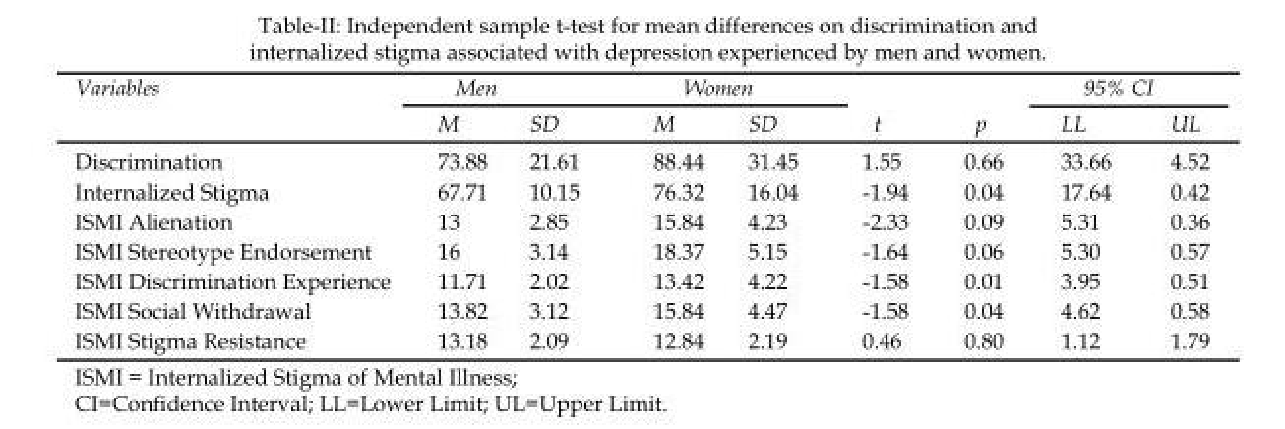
<table><thead><tr><td rowspan="2">Variables</td><td colspan="2">Men</td><td colspan="2">Women</td><td rowspan="2">t</td><td rowspan="2">p</td><td colspan="2">95% CI</td></tr><tr><td>M</td><td>SD</td><td>M</td><td>SD</td><td>LL</td><td>UL</td></tr></thead><tbody><tr><td>Discrimination</td><td>73.88</td><td>21.61</td><td>88.44</td><td>31.45</td><td>1.55</td><td>0.66</td><td>33.66</td><td>4.52</td></tr><tr><td>Internalized Stigma</td><td>67.71</td><td>10.15</td><td>76.32</td><td>16.04</td><td>-1.94</td><td>0.04</td><td>17.64</td><td>0.42</td></tr><tr><td>ISMI Alienation</td><td>13</td><td>2.85</td><td>15.84</td><td>4.23</td><td>-2.33</td><td>0.09</td><td>5.31</td><td>0.36</td></tr><tr><td>ISMI Stereotype Endorsement</td><td>16</td><td>3.14</td><td>18.37</td><td>5.15</td><td>-1.64</td><td>0.06</td><td>5.30</td><td>0.57</td></tr><tr><td>ISMI Discrimination Experience</td><td>11.71</td><td>2.02</td><td>13.42</td><td>4.22</td><td>-1.58</td><td>0.01</td><td>3.95</td><td>0.51</td></tr><tr><td>ISMI Social Withdrawal</td><td>13.82</td><td>3.12</td><td>15.84</td><td>4.47</td><td>-1.58</td><td>0.04</td><td>4.62</td><td>0.58</td></tr><tr><td>ISMI Stigma Resistance</td><td>13.18</td><td>2.09</td><td>12.84</td><td>2.19</td><td>0.46</td><td>0.80</td><td>1.12</td><td>1.79</td></tr></tbody></table>